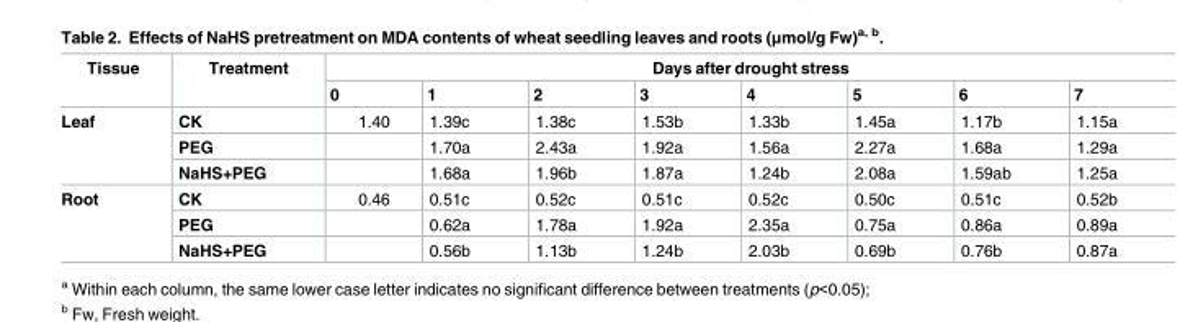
<table><thead><tr><td rowspan="2">Tissue</td><td rowspan="2">Treatment</td><td colspan="8">Days after drought stress</td></tr><tr><td>0</td><td>1</td><td>2</td><td>3</td><td>4</td><td>5</td><td>6</td><td>7</td></tr></thead><tbody><tr><td rowspan="3">Leaf</td><td>CK</td><td>1.40</td><td>1.39c</td><td>1.38c</td><td>1.53b</td><td>1.33b</td><td>1.45a</td><td>1.17b</td><td>1.15a</td></tr><tr><td>PEG</td><td></td><td>1.70a</td><td>2.43a</td><td>1.92a</td><td>1.56a</td><td>2.27a</td><td>1.68a</td><td>1.29a</td></tr><tr><td>NaHS+PEG</td><td></td><td>1.68a</td><td>1.96b</td><td>1.87a</td><td>1.24b</td><td>2.08a</td><td>1.59ab</td><td>1.25a</td></tr><tr><td rowspan="3">Root</td><td>CK</td><td>0.46</td><td>0.51c</td><td>0.52c</td><td>0.51c</td><td>0.52c</td><td>0.50c</td><td>0.51c</td><td>0.52b</td></tr><tr><td>PEG</td><td></td><td>0.62a</td><td>1.78a</td><td>1.92a</td><td>2.35a</td><td>0.75a</td><td>0.86a</td><td>0.89a</td></tr><tr><td>NaHS+PEG</td><td></td><td>0.56b</td><td>1.13b</td><td>1.24b</td><td>2.03b</td><td>0.69b</td><td>0.76b</td><td>0.87a</td></tr></tbody></table>